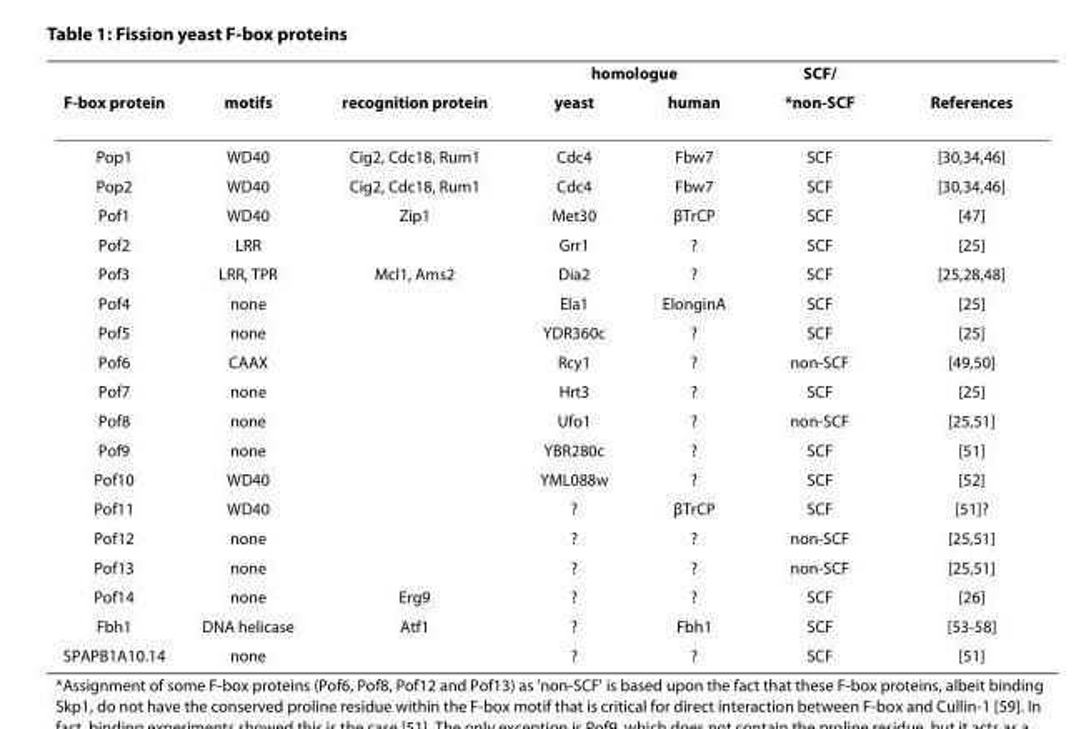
<table><thead><tr><td rowspan="2">F-box protein</td><td rowspan="2">motifs</td><td rowspan="2">recognition protein</td><td colspan="2">homologue</td><td rowspan="2">SCF/ *non-SCF</td><td rowspan="2">References</td></tr><tr><td>yeast</td><td>human</td></tr></thead><tbody><tr><td>Pop1</td><td>WD40</td><td>Cig2, Cdc18, Rum1</td><td>Cdc4</td><td>Fbw7</td><td>SCF</td><td>[30,34,46]</td></tr><tr><td>Pop2</td><td>WD40</td><td>Cig2, Cdc18, Rum1</td><td>Cdc4</td><td>Fbw7</td><td>SCF</td><td>[30,34,46]</td></tr><tr><td>Pof1</td><td>WD40</td><td>Zip1</td><td>Met30</td><td>βTrCP</td><td>SCF</td><td>[47]</td></tr><tr><td>Pof2</td><td>LRR</td><td></td><td>Grr1</td><td>?</td><td>SCF</td><td>[25]</td></tr><tr><td>Pof3</td><td>LRR, TPR</td><td>Mcl1, Ams2</td><td>Dia2</td><td>?</td><td>SCF</td><td>[25,28,48]</td></tr><tr><td>Pof4</td><td>none</td><td></td><td>Ela1</td><td>ElonginA</td><td>SCF</td><td>[25]</td></tr><tr><td>Pof5</td><td>none</td><td></td><td>YDR360c</td><td>?</td><td>SCF</td><td>[25]</td></tr><tr><td>Pof6</td><td>CAAX</td><td></td><td>Rcy1</td><td>?</td><td>non-SCF</td><td>[49,50]</td></tr><tr><td>Pof7</td><td>none</td><td></td><td>Hrt3</td><td>?</td><td>SCF</td><td>[25]</td></tr><tr><td>Pof8</td><td>none</td><td></td><td>Ufo1</td><td>?</td><td>non-SCF</td><td>[25,51]</td></tr><tr><td>Pof9</td><td>none</td><td></td><td>YBR280c</td><td>?</td><td>SCF</td><td>[51]</td></tr><tr><td>Pof10</td><td>WD40</td><td></td><td>YML088w</td><td>?</td><td>SCF</td><td>[52]</td></tr><tr><td>Pof11</td><td>WD40</td><td></td><td>?</td><td>βTrCP</td><td>SCF</td><td>[51]?</td></tr><tr><td>Pof12</td><td>none</td><td></td><td>?</td><td>?</td><td>non-SCF</td><td>[25,51]</td></tr><tr><td>Pof13</td><td>none</td><td></td><td>?</td><td>?</td><td>non-SCF</td><td>[25,51]</td></tr><tr><td>Pof14</td><td>none</td><td>Erg9</td><td>?</td><td>?</td><td>SCF</td><td>[26]</td></tr><tr><td>Fbh1</td><td>DNA helicase</td><td>Atf1</td><td>?</td><td>Fbh1</td><td>SCF</td><td>[53-58]</td></tr><tr><td>SPAPB1A10.14</td><td>none</td><td></td><td>?</td><td>?</td><td>SCF</td><td>[51]</td></tr></tbody></table>